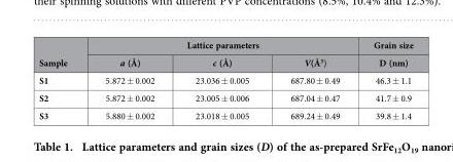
<table><thead><tr><td rowspan="2">Sample</td><td colspan="3">Lattice parameters</td><td rowspan="2">Grain size D (nm)</td></tr><tr><td>a (Å)</td><td>c (Å)</td><td>V(Å<sup>3</sup>)</td></tr></thead><tbody><tr><td>S1</td><td>5.872 ± 0.002</td><td>23.036 ± 0.005</td><td>687.80 ± 0.49</td><td>46.3 ± 1.1</td></tr><tr><td>S2</td><td>5.872 ± 0.002</td><td>23.005 ± 0.006</td><td>687.04 ± 0.47</td><td>41.7 ± 0.9</td></tr><tr><td>S3</td><td>5.880 ± 0.002</td><td>23.018 ± 0.005</td><td>689.24 ± 0.49</td><td>39.8 ± 1.4</td></tr></tbody></table>